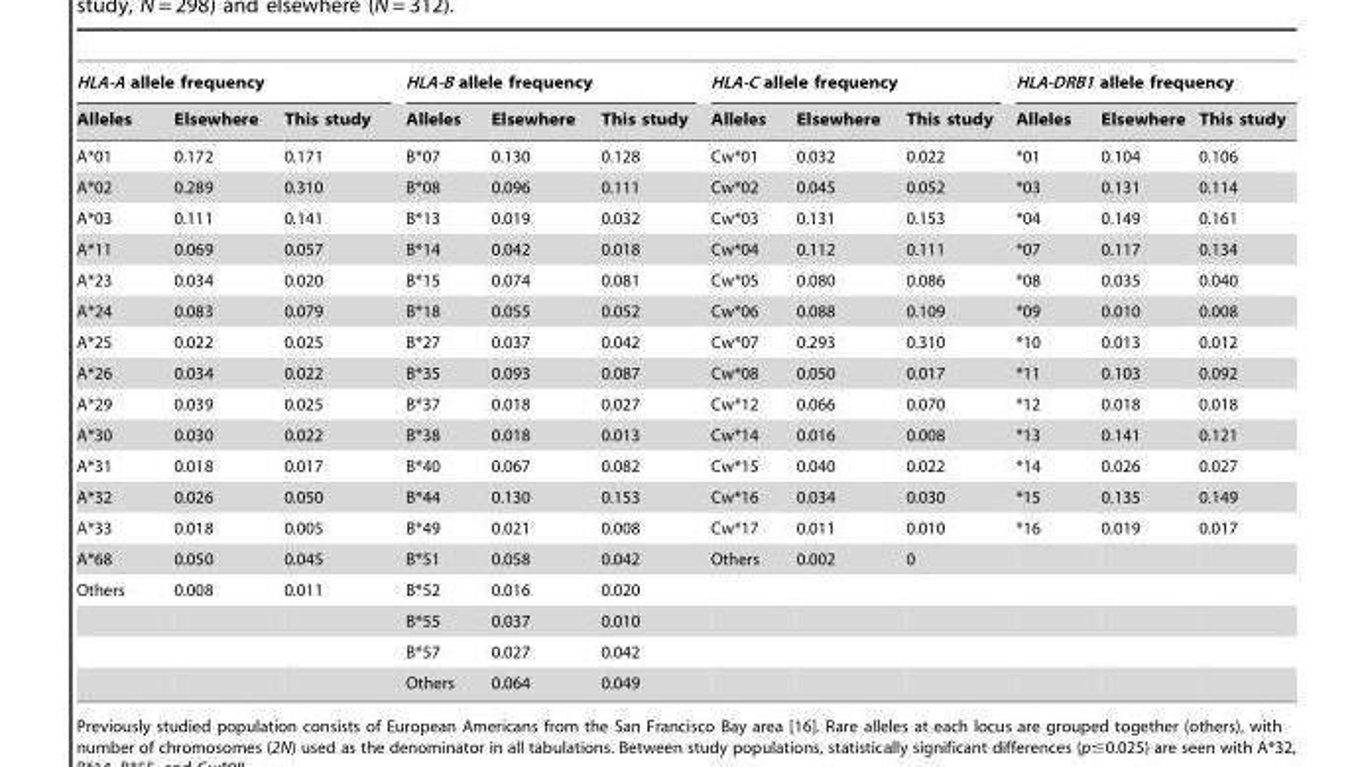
<table><thead><tr><td colspan="3">HLA-A allele frequency</td><td colspan="3">HLA-B allele frequency</td><td colspan="3">HLA-C allele frequency</td><td colspan="3">HLA-DRB1 allele frequency</td></tr><tr><td>Alleles</td><td>Elsewhere</td><td>This study</td><td>Alleles</td><td>Elsewhere</td><td>This study</td><td>Alleles</td><td>Elsewhere</td><td>This study</td><td>Alleles</td><td>Elsewhere</td><td>This study</td></tr></thead><tbody><tr><td>A*01</td><td>0.172</td><td>0.171</td><td>B*07</td><td>0.130</td><td>0.128</td><td>Cw*01</td><td>0.032</td><td>0.022</td><td>*01</td><td>0.104</td><td>0.106</td></tr><tr><td>A*02</td><td>0.289</td><td>0.310</td><td>B*08</td><td>0.096</td><td>0.111</td><td>Cw*02</td><td>0.045</td><td>0.052</td><td>*03</td><td>0.131</td><td>0.114</td></tr><tr><td>A*03</td><td>0.111</td><td>0.141</td><td>B*13</td><td>0.019</td><td>0.032</td><td>Cw*03</td><td>0.131</td><td>0.153</td><td>*04</td><td>0.149</td><td>0.161</td></tr><tr><td>A*11</td><td>0.069</td><td>0.057</td><td>B*14</td><td>0.042</td><td>0.018</td><td>Cw*04</td><td>0.112</td><td>0.111</td><td>*07</td><td>0.117</td><td>0.134</td></tr><tr><td>A*23</td><td>0.034</td><td>0.020</td><td>B*15</td><td>0.074</td><td>0.081</td><td>Cw*05</td><td>0.080</td><td>0.086</td><td>*08</td><td>0.035</td><td>0.040</td></tr><tr><td>A*24</td><td>0.083</td><td>0.079</td><td>B*18</td><td>0.055</td><td>0.052</td><td>Cw*06</td><td>0.088</td><td>0.109</td><td>*09</td><td>0.010</td><td>0.008</td></tr><tr><td>A*25</td><td>0.022</td><td>0.025</td><td>B*27</td><td>0.037</td><td>0.042</td><td>Cw*07</td><td>0.293</td><td>0.310</td><td>*10</td><td>0.013</td><td>0.012</td></tr><tr><td>A*26</td><td>0.034</td><td>0.022</td><td>B*35</td><td>0.093</td><td>0.087</td><td>Cw*08</td><td>0.050</td><td>0.017</td><td>*11</td><td>0.103</td><td>0.092</td></tr><tr><td>A*29</td><td>0.039</td><td>0.025</td><td>B*37</td><td>0.018</td><td>0.027</td><td>Cw*12</td><td>0.066</td><td>0.070</td><td>*12</td><td>0.018</td><td>0.018</td></tr><tr><td>A*30</td><td>0.030</td><td>0.022</td><td>B*38</td><td>0.018</td><td>0.013</td><td>Cw*14</td><td>0.016</td><td>0.008</td><td>*13</td><td>0.141</td><td>0.121</td></tr><tr><td>A*31</td><td>0.018</td><td>0.017</td><td>B*40</td><td>0.067</td><td>0.082</td><td>Cw*15</td><td>0.040</td><td>0.022</td><td>*14</td><td>0.026</td><td>0.027</td></tr><tr><td>A*32</td><td>0.026</td><td>0.050</td><td>B*44</td><td>0.130</td><td>0.153</td><td>Cw*16</td><td>0.034</td><td>0.030</td><td>*15</td><td>0.135</td><td>0.149</td></tr><tr><td>A*33</td><td>0.018</td><td>0.005</td><td>B*49</td><td>0.021</td><td>0.008</td><td>Cw*17</td><td>0.011</td><td>0.010</td><td>*16</td><td>0.019</td><td>0.017</td></tr><tr><td>A*68</td><td>0.050</td><td>0.045</td><td>B*51</td><td>0.058</td><td>0.042</td><td>Others</td><td>0.002</td><td>0</td><td></td><td></td><td></td></tr><tr><td rowspan="4">Others</td><td>0.008</td><td>0.011</td><td>B*52</td><td>0.016</td><td>0.020</td><td></td><td></td><td></td><td></td><td></td><td></td></tr><tr><td></td><td></td><td>B*55</td><td>0.037</td><td>0.010</td><td></td><td></td><td></td><td></td><td></td><td></td></tr><tr><td></td><td></td><td>B*57</td><td>0.027</td><td>0.042</td><td></td><td></td><td></td><td></td><td></td><td></td></tr><tr><td></td><td></td><td>Others</td><td>0.064</td><td>0.049</td><td></td><td></td><td></td><td></td><td></td><td></td></tr></tbody></table>